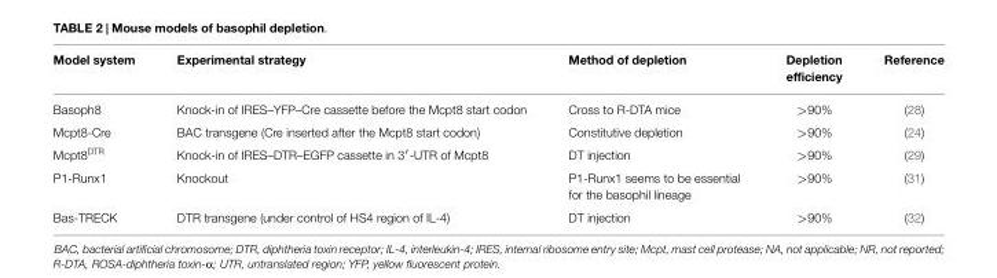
<table><thead><tr><td>Model system</td><td>Experimental strategy</td><td>Method of depletion</td><td>Depletion efficiency</td><td>Reference</td></tr></thead><tbody><tr><td>Basoph8</td><td>Knock-in of IRES–YFP–Cre cassette before the Mcpt8 start codon</td><td>Cross to R-DTA mice</td><td>&gt;90%</td><td>(28)</td></tr><tr><td>Mcpt8-Cre</td><td>BAC transgene (Cre inserted after the Mcpt8 start codon)</td><td>Constitutive depletion</td><td>&gt;90%</td><td>(24)</td></tr><tr><td>Mcpt8<sup>DTR</sup></td><td>Knock-in of IRES–DTR–EGFP cassette in 3′-UTR of Mcpt8</td><td>DT injection</td><td>&gt;90%</td><td>(29)</td></tr><tr><td>P1-Runx1</td><td>Knockout</td><td>P1-Runx1 seems to be essential for the basophil lineage</td><td>&gt;90%</td><td>(31)</td></tr><tr><td>Bas-TRECK</td><td>DTR transgene (under control of HS4 region of IL-4)</td><td>DT injection</td><td>&gt;90%</td><td>(32)</td></tr></tbody></table>